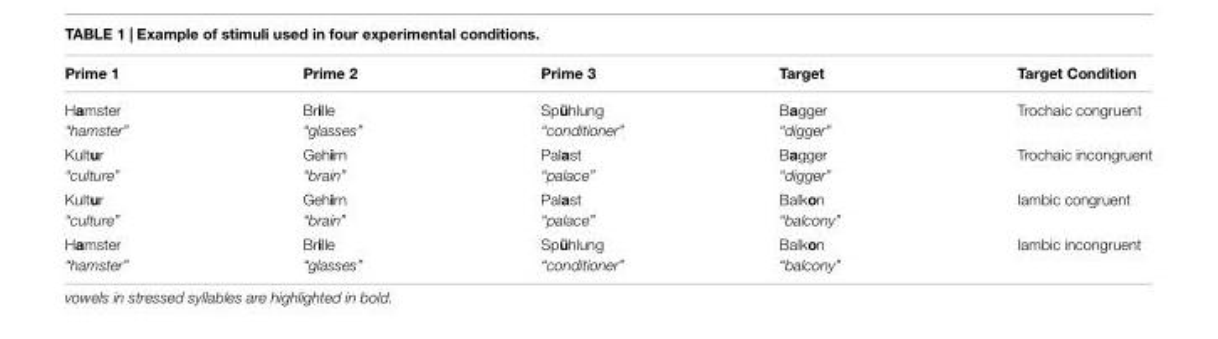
<table><thead><tr><td>Prime 1</td><td>Prime 2</td><td>Prime 3</td><td>Target</td><td>Target Condition</td></tr></thead><tbody><tr><td>Hamster “hamster”</td><td>Brille “glasses”</td><td>Spühlung “conditioner”</td><td>Bagger “digger”</td><td>Trochaic congruent</td></tr><tr><td>Kultur “culture”</td><td>Gehirn “brain”</td><td>Palast “palace”</td><td>Bagger “digger”</td><td>Trochaic incongruent</td></tr><tr><td>Kultur “culture”</td><td>Gehirn “brain”</td><td>Palast “palace”</td><td>Balkon “balcony”</td><td>Iambic congruent</td></tr><tr><td>Hamster “hamster”</td><td>Brille “glasses”</td><td>Spühlung “conditioner”</td><td>Balkon “balcony”</td><td>Iambic incongruent</td></tr></tbody></table>